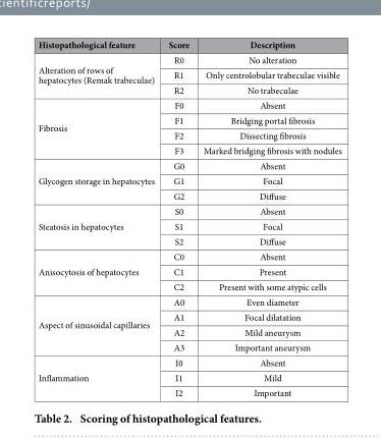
<table><thead><tr><td>Histopathological feature</td><td>Score</td><td>Description</td></tr></thead><tbody><tr><td rowspan="3">Alteration of rows of hepatocytes (Remak trabeculae)</td><td>R0</td><td>No alteration</td></tr><tr><td>R1</td><td>Only centrolobular trabeculae visible</td></tr><tr><td>R2</td><td>No trabeculae</td></tr><tr><td rowspan="4">Fibrosis</td><td>F0</td><td>Absent</td></tr><tr><td>F1</td><td>Bridging portal fibrosis</td></tr><tr><td>F2</td><td>Dissecting fibrosis</td></tr><tr><td>F3</td><td>Marked bridging fibrosis with nodules</td></tr><tr><td rowspan="3">Glycogen storage in hepatocytes</td><td>G0</td><td>Absent</td></tr><tr><td>G1</td><td>Focal</td></tr><tr><td>G2</td><td>Diffuse</td></tr><tr><td rowspan="3">Steatosis in hepatocytes</td><td>S0</td><td>Absent</td></tr><tr><td>S1</td><td>Focal</td></tr><tr><td>S2</td><td>Diffuse</td></tr><tr><td rowspan="3">Anisocytosis of hepatocytes</td><td>C0</td><td>Absent</td></tr><tr><td>C1</td><td>Present</td></tr><tr><td>C2</td><td>Present with some atypic cells</td></tr><tr><td rowspan="4">Aspect of sinusoidal capillaries</td><td>A0</td><td>Even diameter</td></tr><tr><td>A1</td><td>Focal dilatation</td></tr><tr><td>A2</td><td>Mild aneurysm</td></tr><tr><td>A3</td><td>Important aneurysm</td></tr><tr><td rowspan="3">Inflammation</td><td>I0</td><td>Absent</td></tr><tr><td>I1</td><td>Mild</td></tr><tr><td>I2</td><td>Important</td></tr></tbody></table>